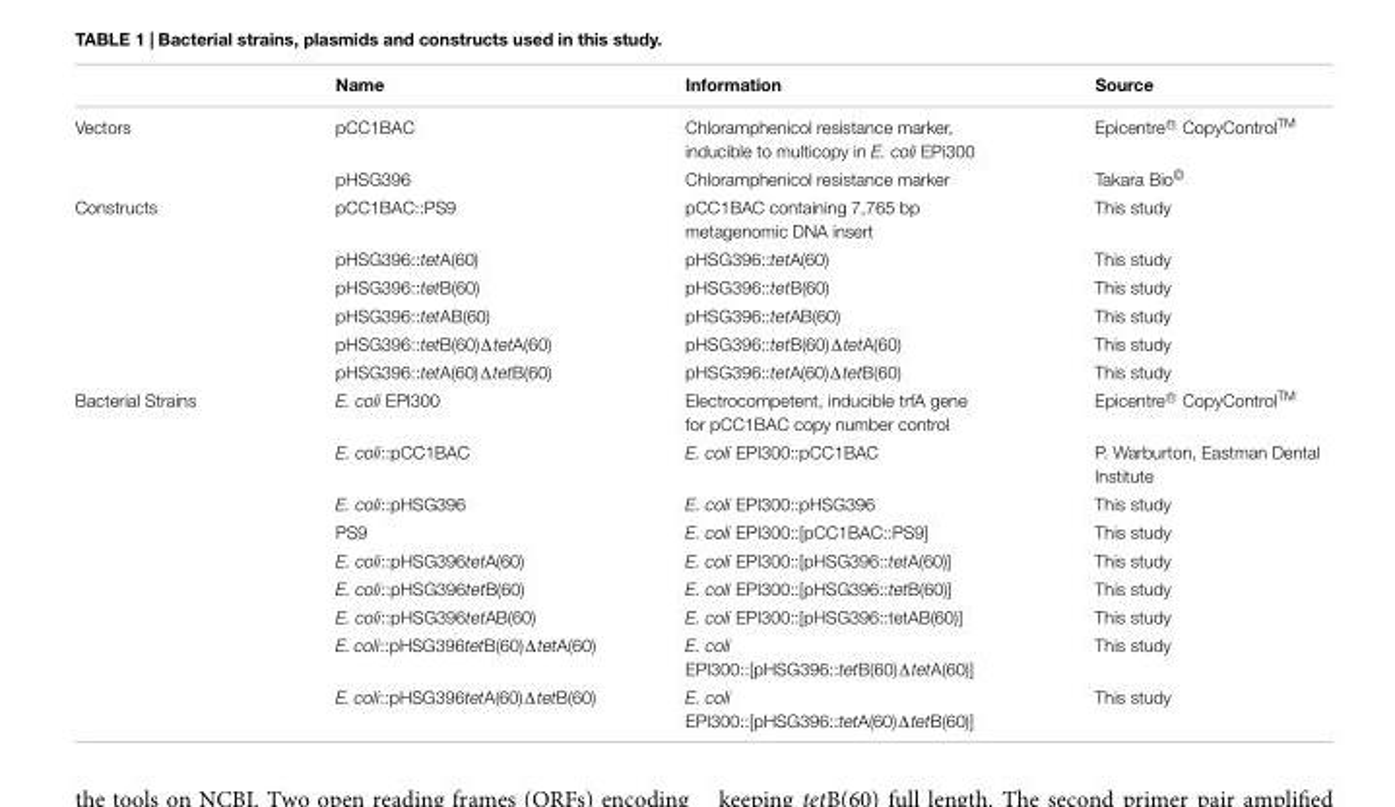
<table><thead><tr><td></td><td>Name</td><td>Information</td><td>Source</td></tr></thead><tbody><tr><td rowspan="2">Vectors</td><td>pCC1BAC</td><td>Chloramphenicol resistance marker, inducible to multicopy in E. coli EPi300</td><td>Epicentre R⃝ CopyControlTM</td></tr><tr><td>pHSG396</td><td>Chloramphenicol resistance marker</td><td>Takara Bio<sup>©</sup></td></tr><tr><td rowspan="6">Constructs</td><td>pCC1BAC::PS9</td><td>pCC1BAC containing 7,765 bp metagenomic DNA insert</td><td>This study</td></tr><tr><td>pHSG396::tetA(60)</td><td>pHSG396::tetA(60)</td><td>This study</td></tr><tr><td>pHSG396::tetB(60)</td><td>pHSG396::tetB(60)</td><td>This study</td></tr><tr><td>pHSG396::tetAB(60)</td><td>pHSG396::tetAB(60)</td><td>This study</td></tr><tr><td>pHSG396::tetB(60)ΔtetA(60)</td><td>pHSG396::tetB(60)ΔtetA(60)</td><td>This study</td></tr><tr><td>pHSG396::tetA(60)ΔtetB(60)</td><td>pHSG396::tetA(60)ΔtetB(60)</td><td>This study</td></tr><tr><td rowspan="9">Bacterial Strains</td><td>E. coli EPI300</td><td>Electrocompetent, inducible trfA gene for pCC1BAC copy number control</td><td>Epicentre R⃝ CopyControlTM</td></tr><tr><td>E. coli::pCC1BAC</td><td>E. coli EPI300::pCC1BAC</td><td>P. Warburton, Eastman Dental Institute</td></tr><tr><td>E. coli::pHSG396</td><td>E. coli EPI300::pHSG396</td><td>This study</td></tr><tr><td>PS9</td><td>E. coli EPI300::[pCC1BAC::PS9]</td><td>This study</td></tr><tr><td>E. coli::pHSG396tetA(60)</td><td>E. coli EPI300::[pHSG396::tetA(60)]</td><td>This study</td></tr><tr><td>E. coli::pHSG396tetB(60)</td><td>E. coli EPI300::[pHSG396::tetB(60)]</td><td>This study</td></tr><tr><td>E. coli::pHSG396tetAB(60)</td><td>E. coli EPI300::[pHSG396::tetAB(60)]</td><td>This study</td></tr><tr><td>E. coli::pHSG396tetB(60)ΔtetA(60)</td><td>E. coli EPI300::[pHSG396::tetB(60)ΔtetA(60)]</td><td>This study</td></tr><tr><td>E. coli::pHSG396tetA(60)ΔtetB(60)</td><td>E. coli EPI300::[pHSG396::tetA(60)ΔtetB(60)]</td><td>This study</td></tr></tbody></table>